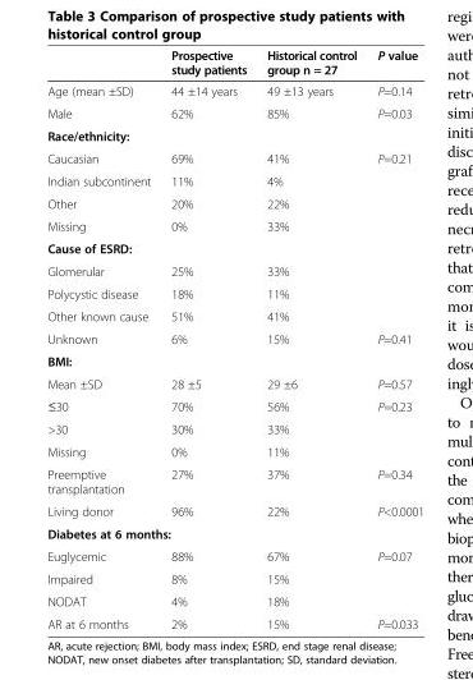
<table><thead><tr><td></td><td>Prospective study patients</td><td>Historical control group n = 27</td><td>P value</td></tr></thead><tbody><tr><td>Age (mean ±SD)</td><td>44 ±14 years</td><td>49 ±13 years</td><td>P=0.14</td></tr><tr><td>Male</td><td>62%</td><td>85%</td><td>P=0.03</td></tr><tr><td colspan="4">Race/ethnicity:</td></tr><tr><td>Caucasian</td><td>69%</td><td>41%</td><td>P=0.21</td></tr><tr><td>Indian subcontinent</td><td>11%</td><td>4%</td><td></td></tr><tr><td>Other</td><td>20%</td><td>22%</td><td></td></tr><tr><td>Missing</td><td>0%</td><td>33%</td><td></td></tr><tr><td colspan="4">Cause of ESRD:</td></tr><tr><td>Glomerular</td><td>25%</td><td>33%</td><td></td></tr><tr><td>Polycystic disease</td><td>18%</td><td>11%</td><td></td></tr><tr><td>Other known cause</td><td>51%</td><td>41%</td><td></td></tr><tr><td>Unknown</td><td>6%</td><td>15%</td><td>P=0.41</td></tr><tr><td colspan="4">BMI:</td></tr><tr><td>Mean ±SD</td><td>28 ±5</td><td>29 ±6</td><td>P=0.57</td></tr><tr><td>≤30</td><td>70%</td><td>56%</td><td>P=0.23</td></tr><tr><td>&gt;30</td><td>30%</td><td>33%</td><td></td></tr><tr><td>Missing</td><td>0%</td><td>11%</td><td></td></tr><tr><td>Preemptive transplantation</td><td>27%</td><td>37%</td><td>P=0.34</td></tr><tr><td>Living donor</td><td>96%</td><td>22%</td><td>P&lt;0.0001</td></tr><tr><td colspan="4">Diabetes at 6 months:</td></tr><tr><td>Euglycemic</td><td>88%</td><td>67%</td><td>P=0.07</td></tr><tr><td>Impaired</td><td>8%</td><td>15%</td><td></td></tr><tr><td>NODAT</td><td>4%</td><td>18%</td><td></td></tr><tr><td>AR at 6 months</td><td>2%</td><td>15%</td><td>P=0.033</td></tr></tbody></table>